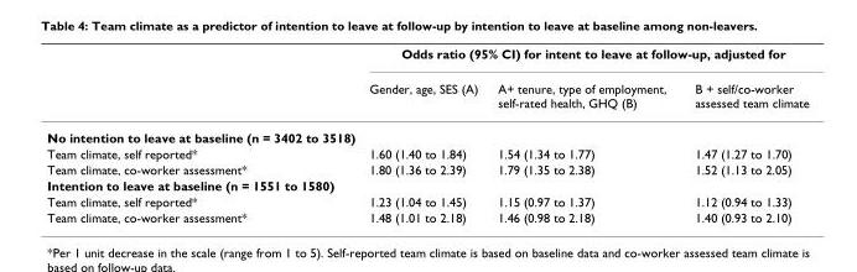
<table><thead><tr><td rowspan="2"></td><td colspan="3">Odds ratio (95% CI) for intent to leave at follow-up, adjusted for</td></tr><tr><td>Gender, age, SES (A)</td><td>A+ tenure, type of employment, self-rated health, GHQ (B)</td><td>B + self/co-worker assessed team climate</td></tr></thead><tbody><tr><td colspan="4">No intention to leave at baseline (n = 3402 to 3518)</td></tr><tr><td>Team climate, self reported*</td><td>1.60 (1.40 to 1.84)</td><td>1.54 (1.34 to 1.77)</td><td>1.47 (1.27 to 1.70)</td></tr><tr><td>Team climate, co-worker assessment*</td><td>1.80 (1.36 to 2.39)</td><td>1.79 (1.35 to 2.38)</td><td>1.52 (1.13 to 2.05)</td></tr><tr><td colspan="4">Intention to leave at baseline (n = 1551 to 1580)</td></tr><tr><td>Team climate, self reported*</td><td>1.23 (1.04 to 1.45)</td><td>1.15 (0.97 to 1.37)</td><td>1.12 (0.94 to 1.33)</td></tr><tr><td>Team climate, co-worker assessment*</td><td>1.48 (1.01 to 2.18)</td><td>1.46 (0.98 to 2.18)</td><td>1.40 (0.93 to 2.10)</td></tr></tbody></table>